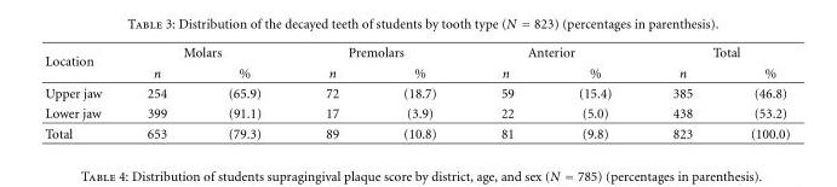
<table><tbody><tr><td rowspan="2">Location</td><td colspan="2">Molars</td><td colspan="2">Premolars</td><td colspan="2">Anterior</td><td colspan="2">Total</td></tr><tr><td>n</td><td>%</td><td>n</td><td>%</td><td>n</td><td>%</td><td>n</td><td>%</td></tr><tr><td>Upper jaw</td><td>254</td><td>(65.9)</td><td>72</td><td>(18.7)</td><td>59</td><td>(15.4)</td><td>385</td><td>(46.8)</td></tr><tr><td>Lower jaw</td><td>399</td><td>(91.1)</td><td>17</td><td>(3.9)</td><td>22</td><td>(5.0)</td><td>438</td><td>(53.2)</td></tr><tr><td>Total</td><td>653</td><td>(79.3)</td><td>89</td><td>(10.8)</td><td>81</td><td>(9.8)</td><td>823</td><td>(100.0)</td></tr></tbody></table>